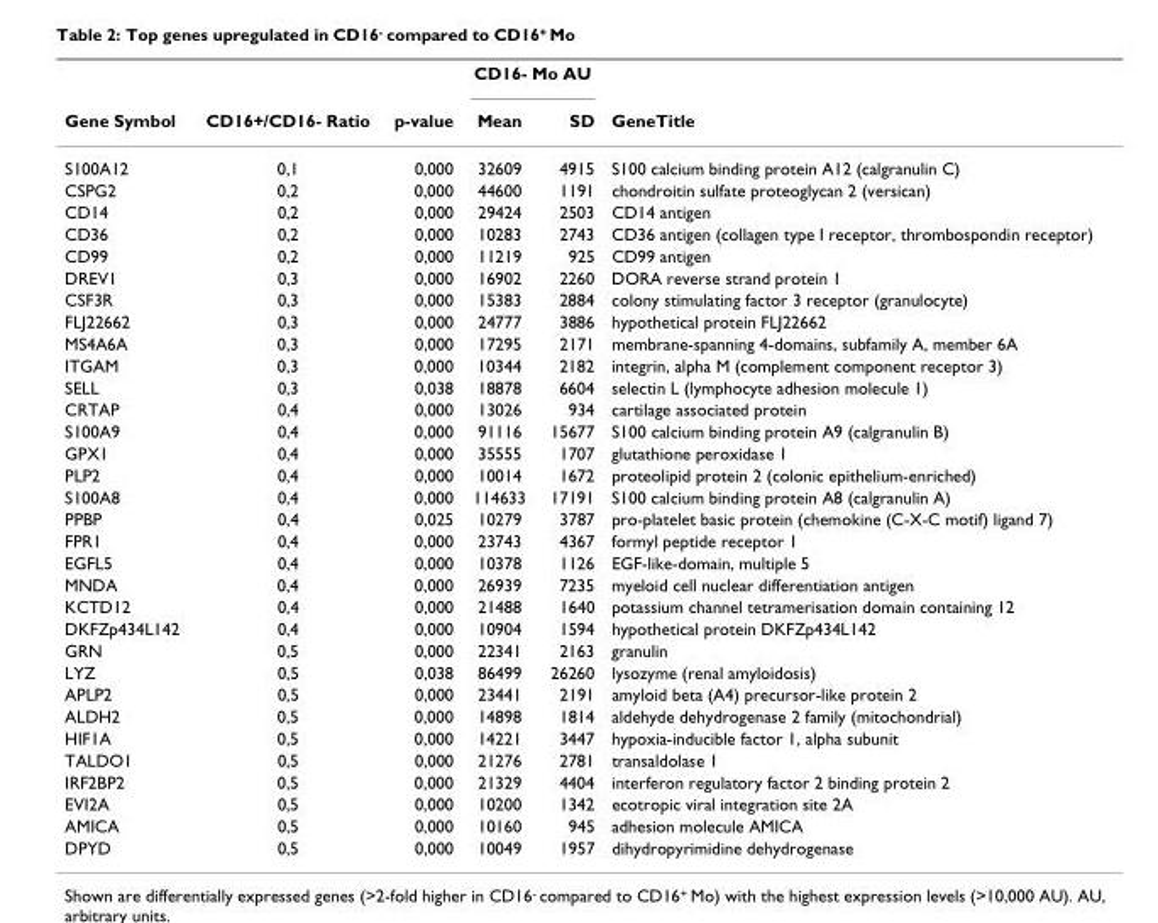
<table><thead><tr><td rowspan="2">Gene Symbol</td><td rowspan="2">CD16+/CD16- Ratio</td><td rowspan="2">p-value</td><td colspan="2">CD16- Mo AU</td><td rowspan="2">GeneTitle</td></tr><tr><td>Mean</td><td>SD</td></tr></thead><tbody><tr><td>S100A12</td><td>0,1</td><td>0,000</td><td>32609</td><td>4915</td><td>S100 calcium binding protein A12 (calgranulin C)</td></tr><tr><td>CSPG2</td><td>0,2</td><td>0,000</td><td>44600</td><td>1191</td><td>chondroitin sulfate proteoglycan 2 (versican)</td></tr><tr><td>CD14</td><td>0,2</td><td>0,000</td><td>29424</td><td>2503</td><td>CD14 antigen</td></tr><tr><td>CD36</td><td>0,2</td><td>0,000</td><td>10283</td><td>2743</td><td>CD36 antigen (collagen type I receptor, thrombospondin receptor)</td></tr><tr><td>CD99</td><td>0,2</td><td>0,000</td><td>11219</td><td>925</td><td>CD99 antigen</td></tr><tr><td>DREV1</td><td>0,3</td><td>0,000</td><td>16902</td><td>2260</td><td>DORA reverse strand protein 1</td></tr><tr><td>CSF3R</td><td>0,3</td><td>0,000</td><td>15383</td><td>2884</td><td>colony stimulating factor 3 receptor (granulocyte)</td></tr><tr><td>FLJ22662</td><td>0,3</td><td>0,000</td><td>24777</td><td>3886</td><td>hypothetical protein FLJ22662</td></tr><tr><td>MS4A6A</td><td>0,3</td><td>0,000</td><td>17295</td><td>2171</td><td>membrane-spanning 4-domains, subfamily A, member 6A</td></tr><tr><td>ITGAM</td><td>0,3</td><td>0,000</td><td>10344</td><td>2182</td><td>integrin, alpha M (complement component receptor 3)</td></tr><tr><td>SELL</td><td>0,3</td><td>0,038</td><td>18878</td><td>6604</td><td>selectin L (lymphocyte adhesion molecule 1)</td></tr><tr><td>CRTAP</td><td>0,4</td><td>0,000</td><td>13026</td><td>934</td><td>cartilage associated protein</td></tr><tr><td>S100A9</td><td>0,4</td><td>0,000</td><td>91116</td><td>15677</td><td>S100 calcium binding protein A9 (calgranulin B)</td></tr><tr><td>GPX1</td><td>0,4</td><td>0,000</td><td>35555</td><td>1707</td><td>glutathione peroxidase 1</td></tr><tr><td>PLP2</td><td>0,4</td><td>0,000</td><td>10014</td><td>1672</td><td>proteolipid protein 2 (colonic epithelium-enriched)</td></tr><tr><td>S100A8</td><td>0,4</td><td>0,000</td><td>114633</td><td>17191</td><td>S100 calcium binding protein A8 (calgranulin A)</td></tr><tr><td>PPBP</td><td>0,4</td><td>0,025</td><td>10279</td><td>3787</td><td>pro-platelet basic protein (chemokine (C-X-C motif) ligand 7)</td></tr><tr><td>FPR1</td><td>0,4</td><td>0,000</td><td>23743</td><td>4367</td><td>formyl peptide receptor 1</td></tr><tr><td>EGFL5</td><td>0,4</td><td>0,000</td><td>10378</td><td>1126</td><td>EGF-like-domain, multiple 5</td></tr><tr><td>MNDA</td><td>0,4</td><td>0,000</td><td>26939</td><td>7235</td><td>myeloid cell nuclear differentiation antigen</td></tr><tr><td>KCTD12</td><td>0,4</td><td>0,000</td><td>21488</td><td>1640</td><td>potassium channel tetramerisation domain containing 12</td></tr><tr><td>DKFZp434L142</td><td>0,4</td><td>0,000</td><td>10904</td><td>1594</td><td>hypothetical protein DKFZp434L142</td></tr><tr><td>GRN</td><td>0,5</td><td>0,000</td><td>22341</td><td>2163</td><td>granulin</td></tr><tr><td>LYZ</td><td>0,5</td><td>0,038</td><td>86499</td><td>26260</td><td>lysozyme (renal amyloidosis)</td></tr><tr><td>APLP2</td><td>0,5</td><td>0,000</td><td>23441</td><td>2191</td><td>amyloid beta (A4) precursor-like protein 2</td></tr><tr><td>ALDH2</td><td>0,5</td><td>0,000</td><td>14898</td><td>1814</td><td>aldehyde dehydrogenase 2 family (mitochondrial)</td></tr><tr><td>HIF1A</td><td>0,5</td><td>0,000</td><td>14221</td><td>3447</td><td>hypoxia-inducible factor 1, alpha subunit</td></tr><tr><td>TALDO1</td><td>0,5</td><td>0,000</td><td>21276</td><td>2781</td><td>transaldolase 1</td></tr><tr><td>IRF2BP2</td><td>0,5</td><td>0,000</td><td>21329</td><td>4404</td><td>interferon regulatory factor 2 binding protein 2</td></tr><tr><td>EVI2A</td><td>0,5</td><td>0,000</td><td>10200</td><td>1342</td><td>ecotropic viral integration site 2A</td></tr><tr><td>AMICA</td><td>0,5</td><td>0,000</td><td>10160</td><td>945</td><td>adhesion molecule AMICA</td></tr><tr><td>DPYD</td><td>0,5</td><td>0,000</td><td>10049</td><td>1957</td><td>dihydropyrimidine dehydrogenase</td></tr></tbody></table>